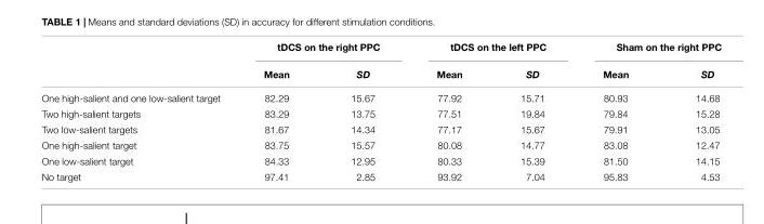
<table><thead><tr><td rowspan="2"></td><td colspan="2">tDCS on the right PPC</td><td colspan="2">tDCS on the left PPC</td><td colspan="2">Sham on the right PPC</td></tr><tr><td>Mean</td><td>SD</td><td>Mean</td><td>SD</td><td>Mean</td><td>SD</td></tr></thead><tbody><tr><td>One high-salient and one low-salient target</td><td>82.29</td><td>15.67</td><td>77.92</td><td>15.71</td><td>80.93</td><td>14.68</td></tr><tr><td>Two high-salient targets</td><td>83.29</td><td>13.75</td><td>77.51</td><td>19.84</td><td>79.84</td><td>15.28</td></tr><tr><td>Two low-salient targets</td><td>81.67</td><td>14.34</td><td>77.17</td><td>15.67</td><td>79.91</td><td>13.05</td></tr><tr><td>One high-salient target</td><td>83.75</td><td>15.57</td><td>80.08</td><td>14.77</td><td>83.08</td><td>12.47</td></tr><tr><td>One low-salient target</td><td>84.33</td><td>12.95</td><td>80.33</td><td>15.39</td><td>81.50</td><td>14.15</td></tr><tr><td>No target</td><td>97.41</td><td>2.85</td><td>93.92</td><td>7.04</td><td>95.83</td><td>4.53</td></tr></tbody></table>